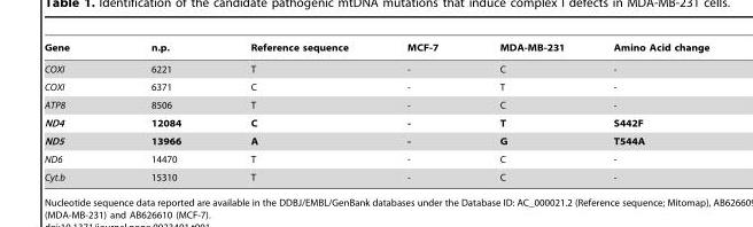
<table><thead><tr><td>Gene</td><td>n.p.</td><td>Reference sequence</td><td>MCF-7</td><td>MDA-MB-231</td><td>Amino Acid change</td></tr></thead><tbody><tr><td>COXI</td><td>6221</td><td>T</td><td>-</td><td>C</td><td>-</td></tr><tr><td>COXI</td><td>6371</td><td>C</td><td>-</td><td>T</td><td>-</td></tr><tr><td>ATP8</td><td>8506</td><td>T</td><td>-</td><td>C</td><td>-</td></tr><tr><td>ND4</td><td>12084</td><td>C</td><td>-</td><td>T</td><td>S442F</td></tr><tr><td>ND5</td><td>13966</td><td>A</td><td>-</td><td>G</td><td>T544A</td></tr><tr><td>ND6</td><td>14470</td><td>T</td><td>-</td><td>C</td><td>-</td></tr><tr><td>Cyt.b</td><td>15310</td><td>T</td><td>-</td><td>C</td><td>-</td></tr></tbody></table>